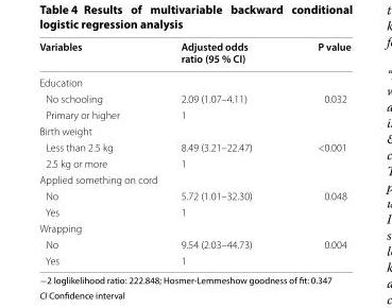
<table><thead><tr><td>Variables</td><td>Adjusted odds ratio (95 % CI)</td><td>P value</td></tr></thead><tbody><tr><td colspan="3">Education</td></tr><tr><td>No schooling</td><td>2.09 (1.07–4.11)</td><td rowspan="2">0.032</td></tr><tr><td>Primary or higher</td><td>1</td></tr><tr><td colspan="3">Birth weight</td></tr><tr><td>Less than 2.5 kg</td><td>8.49 (3.21–22.47)</td><td rowspan="2">&lt;0.001</td></tr><tr><td>2.5 kg or more</td><td>1</td></tr><tr><td colspan="3">Applied something on cord</td></tr><tr><td>No</td><td>5.72 (1.01–32.30)</td><td rowspan="2">0.048</td></tr><tr><td>Yes</td><td>1</td></tr><tr><td colspan="3">Wrapping</td></tr><tr><td>No</td><td>9.54 (2.03–44.73)</td><td rowspan="2">0.004</td></tr><tr><td>Yes</td><td>1</td></tr></tbody></table>